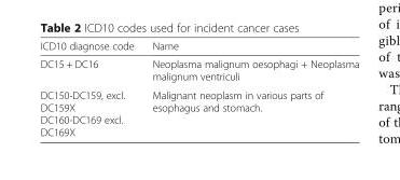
<table><thead><tr><td>ICD10 diagnose code</td><td>Name</td></tr></thead><tbody><tr><td>DC15 + DC16</td><td>Neoplasma malignum oesophagi + Neoplasma malignum ventriculi</td></tr><tr><td>DC150-DC159, excl. DC159X DC160-DC169 excl. DC169X</td><td>Malignant neoplasm in various parts of esophagus and stomach.</td></tr></tbody></table>